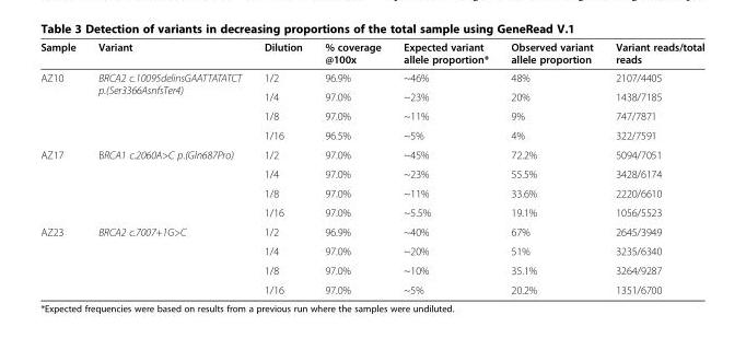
<table><thead><tr><td>Sample</td><td>Variant</td><td>Dilution</td><td>% coverage @100x</td><td>Expected variant allele proportion*</td><td>Observed variant allele proportion</td><td>Variant reads/total reads</td></tr></thead><tbody><tr><td rowspan="4">AZ10</td><td rowspan="4">BRCA2 c.10095delinsGAATTATATCT p.(Ser3366AsnfsTer4)</td><td>1/2</td><td>96.9%</td><td>~46%</td><td>48%</td><td>2107/4405</td></tr><tr><td>1/4</td><td>97.0%</td><td>~23%</td><td>20%</td><td>1438/7185</td></tr><tr><td>1/8</td><td>97.0%</td><td>~11%</td><td>9%</td><td>747/7871</td></tr><tr><td>1/16</td><td>96.5%</td><td>~5%</td><td>4%</td><td>322/7591</td></tr><tr><td rowspan="4">AZ17</td><td rowspan="4">BRCA1 c.2060A&gt;C p.(Gln687Pro)</td><td>1/2</td><td>97.0%</td><td>~45%</td><td>72.2%</td><td>5094/7051</td></tr><tr><td>1/4</td><td>97.0%</td><td>~23%</td><td>55.5%</td><td>3428/6174</td></tr><tr><td>1/8</td><td>97.0%</td><td>~11%</td><td>33.6%</td><td>2220/6610</td></tr><tr><td>1/16</td><td>97.0%</td><td>~5.5%</td><td>19.1%</td><td>1056/5523</td></tr><tr><td rowspan="4">AZ23</td><td rowspan="4">BRCA2 c.7007+1G&gt;C</td><td>1/2</td><td>96.9%</td><td>~40%</td><td>67%</td><td>2645/3949</td></tr><tr><td>1/4</td><td>97.0%</td><td>~20%</td><td>51%</td><td>3235/6340</td></tr><tr><td>1/8</td><td>97.0%</td><td>~10%</td><td>35.1%</td><td>3264/9287</td></tr><tr><td>1/16</td><td>97.0%</td><td>~5%</td><td>20.2%</td><td>1351/6700</td></tr></tbody></table>